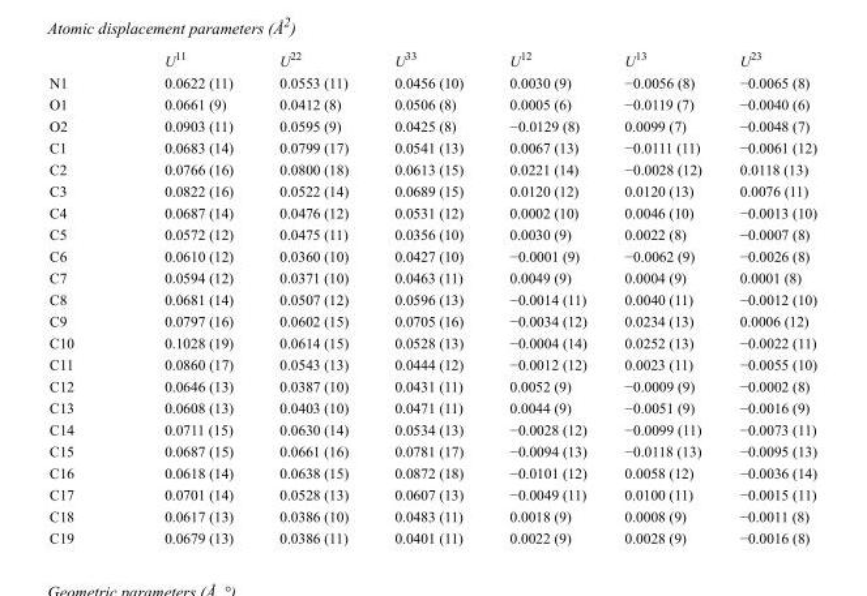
<table><thead><tr><td></td><td>U<sup>11</sup></td><td>U<sup>22</sup></td><td>U<sup>33</sup></td><td>U<sup>12</sup></td><td>U<sup>13</sup></td><td>U<sup>23</sup></td></tr></thead><tbody><tr><td>N1</td><td>0.0622 (11)</td><td>0.0553 (11)</td><td>0.0456 (10)</td><td>0.0030 (9)</td><td>−0.0056 (8)</td><td>−0.0065 (8)</td></tr><tr><td>O1</td><td>0.0661 (9)</td><td>0.0412 (8)</td><td>0.0506 (8)</td><td>0.0005 (6)</td><td>−0.0119 (7)</td><td>−0.0040 (6)</td></tr><tr><td>O2</td><td>0.0903 (11)</td><td>0.0595 (9)</td><td>0.0425 (8)</td><td>−0.0129 (8)</td><td>0.0099 (7)</td><td>−0.0048 (7)</td></tr><tr><td>C1</td><td>0.0683 (14)</td><td>0.0799 (17)</td><td>0.0541 (13)</td><td>0.0067 (13)</td><td>−0.0111 (11)</td><td>−0.0061 (12)</td></tr><tr><td>C2</td><td>0.0766 (16)</td><td>0.0800 (18)</td><td>0.0613 (15)</td><td>0.0221 (14)</td><td>−0.0028 (12)</td><td>0.0118 (13)</td></tr><tr><td>C3</td><td>0.0822 (16)</td><td>0.0522 (14)</td><td>0.0689 (15)</td><td>0.0120 (12)</td><td>0.0120 (13)</td><td>0.0076 (11)</td></tr><tr><td>C4</td><td>0.0687 (14)</td><td>0.0476 (12)</td><td>0.0531 (12)</td><td>0.0002 (10)</td><td>0.0046 (10)</td><td>−0.0013 (10)</td></tr><tr><td>C5</td><td>0.0572 (12)</td><td>0.0475 (11)</td><td>0.0356 (10)</td><td>0.0030 (9)</td><td>0.0022 (8)</td><td>−0.0007 (8)</td></tr><tr><td>C6</td><td>0.0610 (12)</td><td>0.0360 (10)</td><td>0.0427 (10)</td><td>−0.0001 (9)</td><td>−0.0062 (9)</td><td>−0.0026 (8)</td></tr><tr><td>C7</td><td>0.0594 (12)</td><td>0.0371 (10)</td><td>0.0463 (11)</td><td>0.0049 (9)</td><td>0.0004 (9)</td><td>0.0001 (8)</td></tr><tr><td>C8</td><td>0.0681 (14)</td><td>0.0507 (12)</td><td>0.0596 (13)</td><td>−0.0014 (11)</td><td>0.0040 (11)</td><td>−0.0012 (10)</td></tr><tr><td>C9</td><td>0.0797 (16)</td><td>0.0602 (15)</td><td>0.0705 (16)</td><td>−0.0034 (12)</td><td>0.0234 (13)</td><td>0.0006 (12)</td></tr><tr><td>C10</td><td>0.1028 (19)</td><td>0.0614 (15)</td><td>0.0528 (13)</td><td>−0.0004 (14)</td><td>0.0252 (13)</td><td>−0.0022 (11)</td></tr><tr><td>C11</td><td>0.0860 (17)</td><td>0.0543 (13)</td><td>0.0444 (12)</td><td>−0.0012 (12)</td><td>0.0023 (11)</td><td>−0.0055 (10)</td></tr><tr><td>C12</td><td>0.0646 (13)</td><td>0.0387 (10)</td><td>0.0431 (11)</td><td>0.0052 (9)</td><td>−0.0009 (9)</td><td>−0.0002 (8)</td></tr><tr><td>C13</td><td>0.0608 (13)</td><td>0.0403 (10)</td><td>0.0471 (11)</td><td>0.0044 (9)</td><td>−0.0051 (9)</td><td>−0.0016 (9)</td></tr><tr><td>C14</td><td>0.0711 (15)</td><td>0.0630 (14)</td><td>0.0534 (13)</td><td>−0.0028 (12)</td><td>−0.0099 (11)</td><td>−0.0073 (11)</td></tr><tr><td>C15</td><td>0.0687 (15)</td><td>0.0661 (16)</td><td>0.0781 (17)</td><td>−0.0094 (13)</td><td>−0.0118 (13)</td><td>−0.0095 (13)</td></tr><tr><td>C16</td><td>0.0618 (14)</td><td>0.0638 (15)</td><td>0.0872 (18)</td><td>−0.0101 (12)</td><td>0.0058 (12)</td><td>−0.0036 (14)</td></tr><tr><td>C17</td><td>0.0701 (14)</td><td>0.0528 (13)</td><td>0.0607 (13)</td><td>−0.0049 (11)</td><td>0.0100 (11)</td><td>−0.0015 (11)</td></tr><tr><td>C18</td><td>0.0617 (13)</td><td>0.0386 (10)</td><td>0.0483 (11)</td><td>0.0018 (9)</td><td>0.0008 (9)</td><td>−0.0011 (8)</td></tr><tr><td>C19</td><td>0.0679 (13)</td><td>0.0386 (11)</td><td>0.0401 (11)</td><td>0.0022 (9)</td><td>0.0028 (9)</td><td>−0.0016 (8)</td></tr></tbody></table>